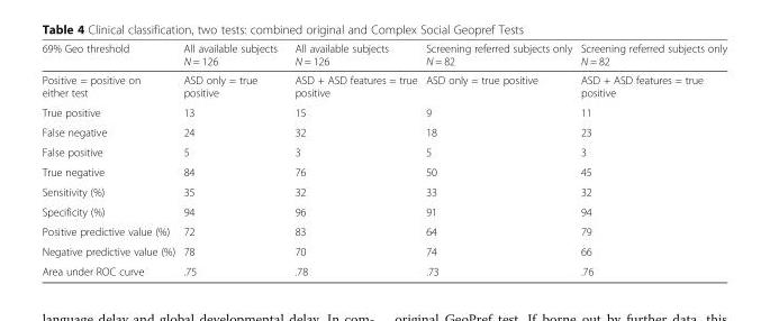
<table><thead><tr><td>69% Geo threshold</td><td>All available subjects N = 126</td><td>All available subjects N = 126</td><td>Screening referred subjects only N = 82</td><td>Screening referred subjects only N = 82</td></tr></thead><tbody><tr><td>Positive = positive on either test</td><td>ASD only = true positive</td><td>ASD + ASD features = true positive</td><td>ASD only = true positive</td><td>ASD + ASD features = true positive</td></tr><tr><td>True positive</td><td>13</td><td>15</td><td>9</td><td>11</td></tr><tr><td>False negative</td><td>24</td><td>32</td><td>18</td><td>23</td></tr><tr><td>False positive</td><td>5</td><td>3</td><td>5</td><td>3</td></tr><tr><td>True negative</td><td>84</td><td>76</td><td>50</td><td>45</td></tr><tr><td>Sensitivity (%)</td><td>35</td><td>32</td><td>33</td><td>32</td></tr><tr><td>Specificity (%)</td><td>94</td><td>96</td><td>91</td><td>94</td></tr><tr><td>Positive predictive value (%)</td><td>72</td><td>83</td><td>64</td><td>79</td></tr><tr><td>Negative predictive value (%)</td><td>78</td><td>70</td><td>74</td><td>66</td></tr><tr><td>Area under ROC curve</td><td>.75</td><td>.78</td><td>.73</td><td>.76</td></tr></tbody></table>